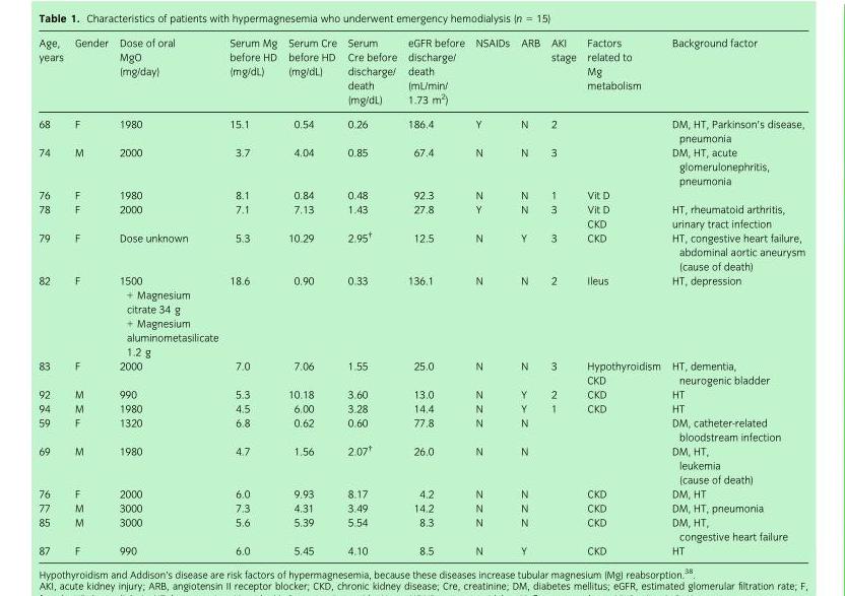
<table><thead><tr><td>Age, years</td><td>Gender</td><td>Dose of oral MgO (mg/day)</td><td>Serum Mg before HD (mg/dL)</td><td>Serum Cre before HD (mg/dL)</td><td>Serum Cre before discharge/ death (mg/dL)</td><td>eGFR before discharge/ death (mL/min/ 1.73 m<sup>2</sup>)</td><td>NSAIDs</td><td>ARB</td><td>AKI stage</td><td>Factors related to Mg metabolism</td><td>Background factor</td></tr></thead><tbody><tr><td>68</td><td>F</td><td>1980</td><td>15.1</td><td>0.54</td><td>0.26</td><td>186.4</td><td>Y</td><td>N</td><td>2</td><td></td><td>DM, HT, Parkinson’s disease, pneumonia</td></tr><tr><td>74</td><td>M</td><td>2000</td><td>3.7</td><td>4.04</td><td>0.85</td><td>67.4</td><td>N</td><td>N</td><td>3</td><td></td><td>DM, HT, acute glomerulonephritis, pneumonia</td></tr><tr><td>76</td><td>F</td><td>1980</td><td>8.1</td><td>0.84</td><td>0.48</td><td>92.3</td><td>N</td><td>N</td><td>1</td><td>Vit D</td><td></td></tr><tr><td rowspan="2">78</td><td rowspan="2">F</td><td rowspan="2">2000</td><td rowspan="2">7.1</td><td rowspan="2">7.13</td><td rowspan="2">1.43</td><td rowspan="2">27.8</td><td rowspan="2">Y</td><td rowspan="2">N</td><td rowspan="2">3</td><td>Vit D</td><td>HT, rheumatoid arthritis,</td></tr><tr><td>CKD</td><td>urinary tract infection</td></tr><tr><td>79</td><td>F</td><td>Dose unknown</td><td>5.3</td><td>10.29</td><td>2.95†</td><td>12.5</td><td>N</td><td>Y</td><td>3</td><td>CKD</td><td>HT, congestive heart failure, abdominal aortic aneurysm (cause of death)</td></tr><tr><td>82</td><td>F</td><td>1500 + Magnesium citrate 34 g + Magnesium aluminometasilicate 1.2 g</td><td>18.6</td><td>0.90</td><td>0.33</td><td>136.1</td><td>N</td><td>N</td><td>2</td><td>Ileus</td><td>HT, depression</td></tr><tr><td>83</td><td>F</td><td>2000</td><td>7.0</td><td>7.06</td><td>1.55</td><td>25.0</td><td>N</td><td>N</td><td>3</td><td>Hypothyroidism CKD</td><td>HT, dementia, neurogenic bladder</td></tr><tr><td>92</td><td>M</td><td>990</td><td>5.3</td><td>10.18</td><td>3.60</td><td>13.0</td><td>N</td><td>Y</td><td>2</td><td>CKD</td><td>HT</td></tr><tr><td>94</td><td>M</td><td>1980</td><td>4.5</td><td>6.00</td><td>3.28</td><td>14.4</td><td>N</td><td>Y</td><td>1</td><td>CKD</td><td>HT</td></tr><tr><td>59</td><td>F</td><td>1320</td><td>6.8</td><td>0.62</td><td>0.60</td><td>77.8</td><td>N</td><td>N</td><td></td><td></td><td>DM, catheter-related bloodstream infection</td></tr><tr><td>69</td><td>M</td><td>1980</td><td>4.7</td><td>1.56</td><td>2.07†</td><td>26.0</td><td>N</td><td>N</td><td></td><td></td><td>DM, HT, leukemia (cause of death)</td></tr><tr><td>76</td><td>F</td><td>2000</td><td>6.0</td><td>9.93</td><td>8.17</td><td>4.2</td><td>N</td><td>N</td><td></td><td>CKD</td><td>DM, HT</td></tr><tr><td>77</td><td>M</td><td>3000</td><td>7.3</td><td>4.31</td><td>3.49</td><td>14.2</td><td>N</td><td>N</td><td></td><td>CKD</td><td>DM, HT, pneumonia</td></tr><tr><td>85</td><td>M</td><td>3000</td><td>5.6</td><td>5.39</td><td>5.54</td><td>8.3</td><td>N</td><td>N</td><td></td><td>CKD</td><td>DM, HT, congestive heart failure</td></tr><tr><td>87</td><td>F</td><td>990</td><td>6.0</td><td>5.45</td><td>4.10</td><td>8.5</td><td>N</td><td>Y</td><td></td><td>CKD</td><td>HT</td></tr></tbody></table>